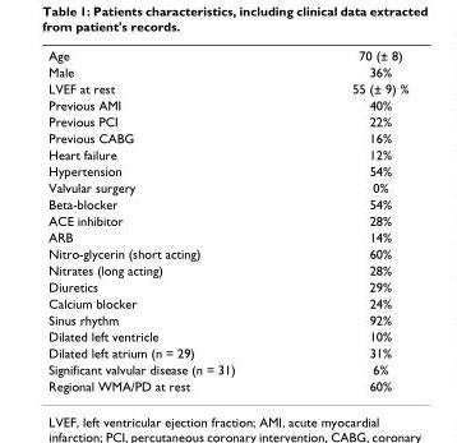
<table><tbody><tr><td>Age</td><td>70 (± 8)</td></tr><tr><td>Male</td><td>36%</td></tr><tr><td>LVEF at rest</td><td>55 (± 9) %</td></tr><tr><td>Previous AMI</td><td>40%</td></tr><tr><td>Previous PCI</td><td>22%</td></tr><tr><td>Previous CABG</td><td>16%</td></tr><tr><td>Heart failure</td><td>12%</td></tr><tr><td>Hypertension</td><td>54%</td></tr><tr><td>Valvular surgery</td><td>0%</td></tr><tr><td>Beta-blocker</td><td>54%</td></tr><tr><td>ACE inhibitor</td><td>28%</td></tr><tr><td>ARB</td><td>14%</td></tr><tr><td>Nitro-glycerin (short acting)</td><td>60%</td></tr><tr><td>Nitrates (long acting)</td><td>28%</td></tr><tr><td>Diuretics</td><td>29%</td></tr><tr><td>Calcium blocker</td><td>24%</td></tr><tr><td>Sinus rhythm</td><td>92%</td></tr><tr><td>Dilated left ventricle</td><td>10%</td></tr><tr><td>Dilated left atrium (n = 29)</td><td>31%</td></tr><tr><td>Significant valvular disease (n = 31)</td><td>6%</td></tr><tr><td>Regional WMA/PD at rest</td><td>60%</td></tr></tbody></table>